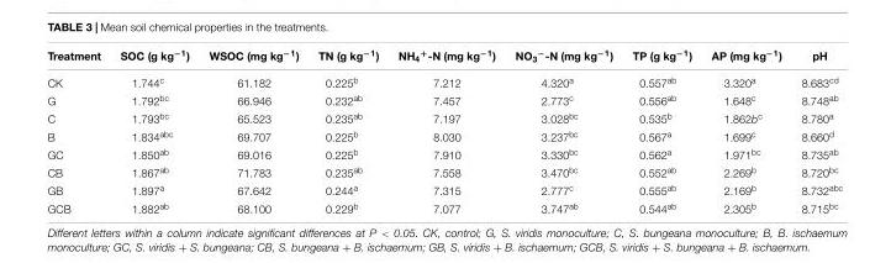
<table><thead><tr><td>Treatment</td><td>SOC (g kg<sup>−1</sup>)</td><td>WSOC (mg kg<sup>−1</sup>)</td><td>TN (g kg<sup>−1</sup>)</td><td>NH<sub>4</sub><sup>+</sup>-N (mg kg<sup>−1</sup>)</td><td>NO<sub>3</sub><sup>−</sup>-N (mg kg<sup>−1</sup>)</td><td>TP (g kg<sup>−1</sup>)</td><td>AP (mg kg<sup>−1</sup>)</td><td>pH</td></tr></thead><tbody><tr><td>CK</td><td>1.744c</td><td>61.182</td><td>0.225b</td><td>7.212</td><td>4.320a</td><td>0.557ab</td><td>3.320a</td><td>8.683cd</td></tr><tr><td>G</td><td>1.792bc</td><td>66.946</td><td>0.232ab</td><td>7.457</td><td>2.773c</td><td>0.556ab</td><td>1.648c</td><td>8.748ab</td></tr><tr><td>C</td><td>1.793bc</td><td>65.523</td><td>0.235ab</td><td>7.197</td><td>3.028bc</td><td>0.535b</td><td>1.862bc</td><td>8.780a</td></tr><tr><td>B</td><td>1.834abc</td><td>69.707</td><td>0.225b</td><td>8.030</td><td>3.237bc</td><td>0.567a</td><td>1.699c</td><td>8.660d</td></tr><tr><td>GC</td><td>1.850ab</td><td>69.016</td><td>0.225b</td><td>7.910</td><td>3.330bc</td><td>0.562a</td><td>1.971bc</td><td>8.735ab</td></tr><tr><td>CB</td><td>1.867ab</td><td>71.783</td><td>0.235ab</td><td>7.558</td><td>3.470bc</td><td>0.552ab</td><td>2.269b</td><td>8.720bc</td></tr><tr><td>GB</td><td>1.897a</td><td>67.642</td><td>0.244a</td><td>7.315</td><td>2.777c</td><td>0.555ab</td><td>2.169b</td><td>8.732abc</td></tr><tr><td>GCB</td><td>1.882ab</td><td>68.100</td><td>0.229b</td><td>7.077</td><td>3.747ab</td><td>0.544ab</td><td>2.305b</td><td>8.715bc</td></tr></tbody></table>